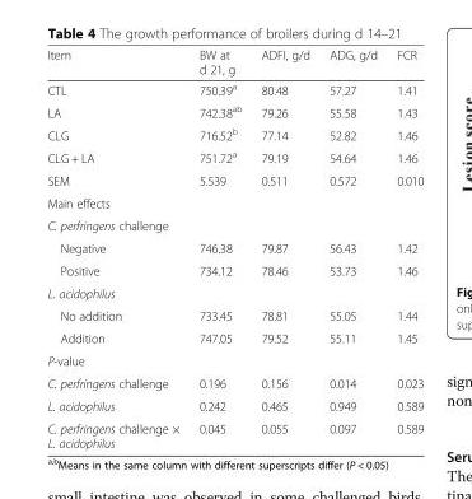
<table><thead><tr><td>Item</td><td>BW at d 21, g</td><td>ADFI, g/d</td><td>ADG, g/d</td><td>FCR</td></tr></thead><tbody><tr><td>CTL</td><td>750.39<sup>a</sup></td><td>80.48</td><td>57.27</td><td>1.41</td></tr><tr><td>LA</td><td>742.38<sup>ab</sup></td><td>79.26</td><td>55.58</td><td>1.43</td></tr><tr><td>CLG</td><td>716.52<sup>b</sup></td><td>77.14</td><td>52.82</td><td>1.46</td></tr><tr><td>CLG + LA</td><td>751.72<sup>a</sup></td><td>79.19</td><td>54.64</td><td>1.46</td></tr><tr><td>SEM</td><td>5.539</td><td>0.511</td><td>0.572</td><td>0.010</td></tr><tr><td colspan="5">Main effects</td></tr><tr><td colspan="5">C. perfringens challenge</td></tr><tr><td>Negative</td><td>746.38</td><td>79.87</td><td>56.43</td><td>1.42</td></tr><tr><td>Positive</td><td>734.12</td><td>78.46</td><td>53.73</td><td>1.46</td></tr><tr><td colspan="5">L. acidophilus</td></tr><tr><td>No addition</td><td>733.45</td><td>78.81</td><td>55.05</td><td>1.44</td></tr><tr><td>Addition</td><td>747.05</td><td>79.52</td><td>55.11</td><td>1.45</td></tr><tr><td colspan="5">P-value</td></tr><tr><td>C. perfringens challenge</td><td>0.196</td><td>0.156</td><td>0.014</td><td>0.023</td></tr><tr><td>L. acidophilus</td><td>0.242</td><td>0.465</td><td>0.949</td><td>0.589</td></tr><tr><td>C. perfringens challenge × L. acidophilus</td><td>0.045</td><td>0.055</td><td>0.097</td><td>0.589</td></tr></tbody></table>